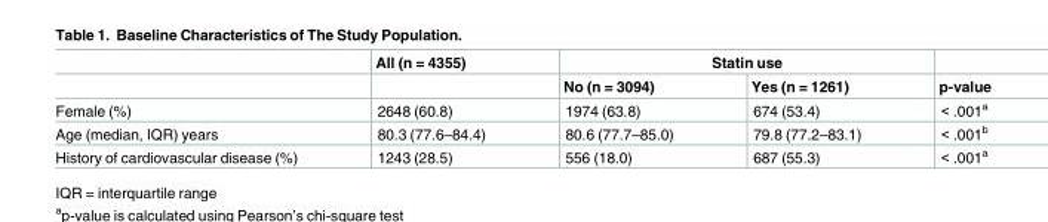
<table><thead><tr><td rowspan="2"></td><td rowspan="2">All (n = 4355)</td><td colspan="2">Statin use</td><td rowspan="2">p-value</td></tr><tr><td>No (n = 3094)</td><td>Yes (n = 1261)</td></tr></thead><tbody><tr><td>Female (%)</td><td>2648 (60.8)</td><td>1974 (63.8)</td><td>674 (53.4)</td><td>&lt; .001<sup>a</sup></td></tr><tr><td>Age (median, IQR) years</td><td>80.3 (77.6–84.4)</td><td>80.6 (77.7–85.0)</td><td>79.8 (77.2–83.1)</td><td>&lt; .001<sup>b</sup></td></tr><tr><td>History of cardiovascular disease (%)</td><td>1243 (28.5)</td><td>556 (18.0)</td><td>687 (55.3)</td><td>&lt; .001<sup>a</sup></td></tr></tbody></table>